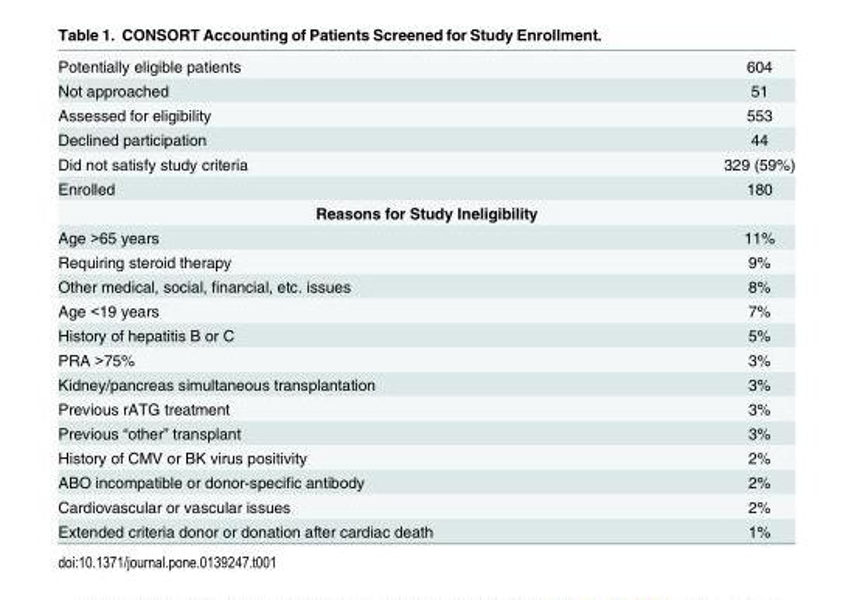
<table><tbody><tr><td>Potentially eligible patients</td><td>604</td></tr><tr><td>Not approached</td><td>51</td></tr><tr><td>Assessed for eligibility</td><td>553</td></tr><tr><td>Declined participation</td><td>44</td></tr><tr><td>Did not satisfy study criteria</td><td>329 (59%)</td></tr><tr><td>Enrolled</td><td>180</td></tr><tr><td colspan="2">Reasons for Study Ineligibility</td></tr><tr><td>Age &gt;65 years</td><td>11%</td></tr><tr><td>Requiring steroid therapy</td><td>9%</td></tr><tr><td>Other medical, social, financial, etc. issues</td><td>8%</td></tr><tr><td>Age &lt;19 years</td><td>7%</td></tr><tr><td>History of hepatitis B or C</td><td>5%</td></tr><tr><td>PRA &gt;75%</td><td>3%</td></tr><tr><td>Kidney/pancreas simultaneous transplantation</td><td>3%</td></tr><tr><td>Previous rATG treatment</td><td>3%</td></tr><tr><td>Previous “other” transplant</td><td>3%</td></tr><tr><td>History of CMV or BK virus positivity</td><td>2%</td></tr><tr><td>ABO incompatible or donor-specific antibody</td><td>2%</td></tr><tr><td>Cardiovascular or vascular issues</td><td>2%</td></tr><tr><td>Extended criteria donor or donation after cardiac death</td><td>1%</td></tr></tbody></table>